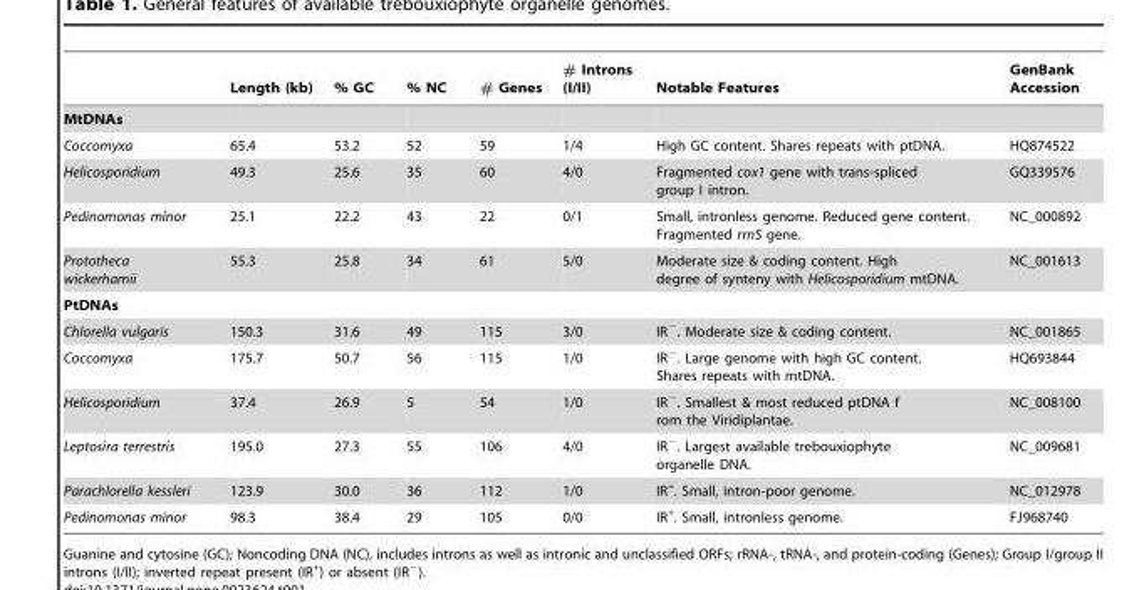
<table><thead><tr><td></td><td>Length (kb)</td><td>% GC</td><td>% NC</td><td># Genes</td><td># Introns (I/II)</td><td>Notable Features</td><td>GenBank Accession</td></tr></thead><tbody><tr><td colspan="8">MtDNAs</td></tr><tr><td>Coccomyxa</td><td>65.4</td><td>53.2</td><td>52</td><td>59</td><td>1/4</td><td>High GC content. Shares repeats with ptDNA.</td><td>HQ874522</td></tr><tr><td>Helicosporidium</td><td>49.3</td><td>25.6</td><td>35</td><td>60</td><td>4/0</td><td>Fragmented cox1 gene with trans-spliced group I intron.</td><td>GQ339576</td></tr><tr><td>Pedinomonas minor</td><td>25.1</td><td>22.2</td><td>43</td><td>22</td><td>0/1</td><td>Small, intronless genome. Reduced gene content. Fragmented rrnS gene.</td><td>NC_000892</td></tr><tr><td>Prototheca wickerhamii</td><td>55.3</td><td>25.8</td><td>34</td><td>61</td><td>5/0</td><td>Moderate size &amp; coding content. High degree of synteny with Helicosporidium mtDNA.</td><td>NC_001613</td></tr><tr><td colspan="8">PtDNAs</td></tr><tr><td>Chlorella vulgaris</td><td>150.3</td><td>31.6</td><td>49</td><td>115</td><td>3/0</td><td>IR<sup>−</sup>. Moderate size &amp; coding content.</td><td>NC_001865</td></tr><tr><td>Coccomyxa</td><td>175.7</td><td>50.7</td><td>56</td><td>115</td><td>1/0</td><td>IR<sup>−</sup>. Large genome with high GC content. Shares repeats with mtDNA.</td><td>HQ693844</td></tr><tr><td>Helicosporidium</td><td>37.4</td><td>26.9</td><td>5</td><td>54</td><td>1/0</td><td>IR<sup>−</sup>. Smallest &amp; most reduced ptDNA f rom the Viridiplantae.</td><td>NC_008100</td></tr><tr><td>Leptosira terrestris</td><td>195.0</td><td>27.3</td><td>55</td><td>106</td><td>4/0</td><td>IR<sup>−</sup>. Largest available trebouxiophyte organelle DNA.</td><td>NC_009681</td></tr><tr><td>Parachlorella kessleri</td><td>123.9</td><td>30.0</td><td>36</td><td>112</td><td>1/0</td><td>IR<sup>+</sup>. Small, intron-poor genome.</td><td>NC_012978</td></tr><tr><td>Pedinomonas minor</td><td>98.3</td><td>38.4</td><td>29</td><td>105</td><td>0/0</td><td>IR<sup>+</sup>. Small, intronless genome.</td><td>FJ968740</td></tr></tbody></table>